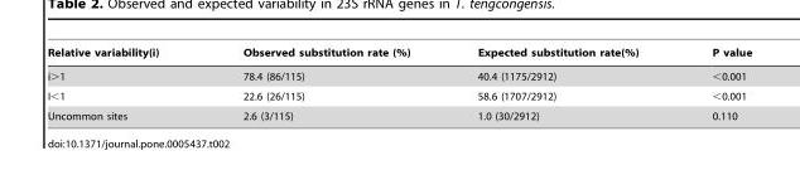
<table><thead><tr><td>Relative variability(i)</td><td>Observed substitution rate (%)</td><td>Expected substitution rate(%)</td><td>P value</td></tr></thead><tbody><tr><td>i&gt;1</td><td>78.4 (86/115)</td><td>40.4 (1175/2912)</td><td>&lt;0.001</td></tr><tr><td>I&lt;1</td><td>22.6 (26/115)</td><td>58.6 (1707/2912)</td><td>&lt;0.001</td></tr><tr><td>Uncommon sites</td><td>2.6 (3/115)</td><td>1.0 (30/2912)</td><td>0.110</td></tr></tbody></table>